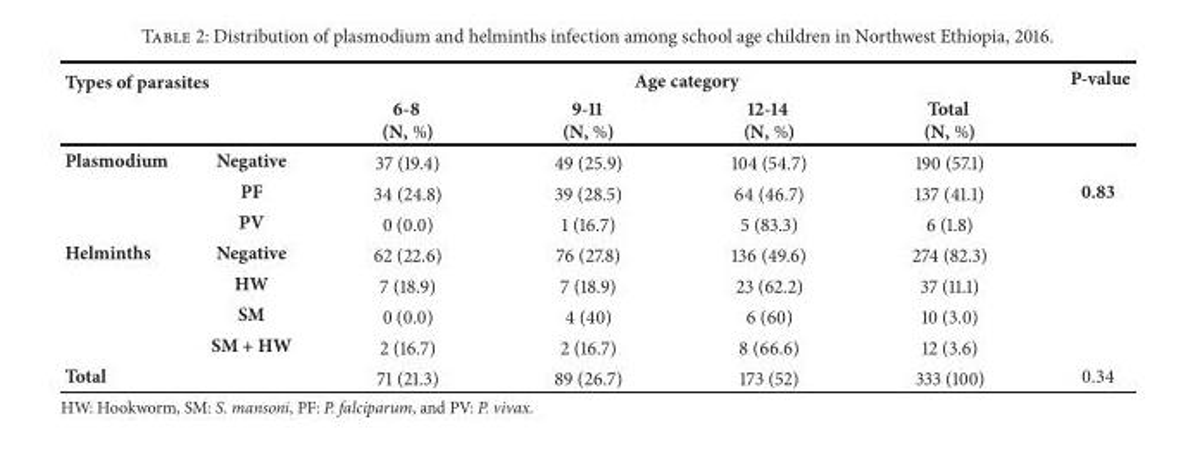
<table><thead><tr><td rowspan="2" colspan="2">Types of parasites</td><td colspan="4">Age category</td><td rowspan="3">P-value</td></tr><tr><td rowspan="2">6-8 (N, %) 37 (19.4)</td><td rowspan="2">9-11 (N, %) 49 (25.9)</td><td rowspan="2">12-14 (N, %) 104 (54.7)</td><td rowspan="2">Total (N, %) 190 (57.1)</td></tr><tr><td>Plasmodium</td><td>Negative</td></tr></thead><tbody><tr><td rowspan="2"></td><td>PF</td><td>34 (24.8)</td><td>39 (28.5)</td><td>64 (46.7)</td><td>137 (41.1)</td><td>0.83</td></tr><tr><td>PV</td><td>0 (0.0)</td><td>1 (16.7)</td><td>5 (83.3)</td><td>6 (1.8)</td><td></td></tr><tr><td rowspan="4">Helminths</td><td>Negative</td><td>62 (22.6)</td><td>76 (27.8)</td><td>136 (49.6)</td><td>274 (82.3)</td><td rowspan="4"></td></tr><tr><td>HW</td><td>7 (18.9)</td><td>7 (18.9)</td><td>23 (62.2)</td><td>37 (11.1)</td></tr><tr><td>SM</td><td>0 (0.0)</td><td>4 (40)</td><td>6 (60)</td><td>10 (3.0)</td></tr><tr><td>SM + HW</td><td>2 (16.7)</td><td>2 (16.7)</td><td>8 (66.6)</td><td>12 (3.6)</td></tr><tr><td colspan="2">Total</td><td>71 (21.3)</td><td>89 (26.7)</td><td>173 (52)</td><td>333 (100)</td><td>0.34</td></tr></tbody></table>